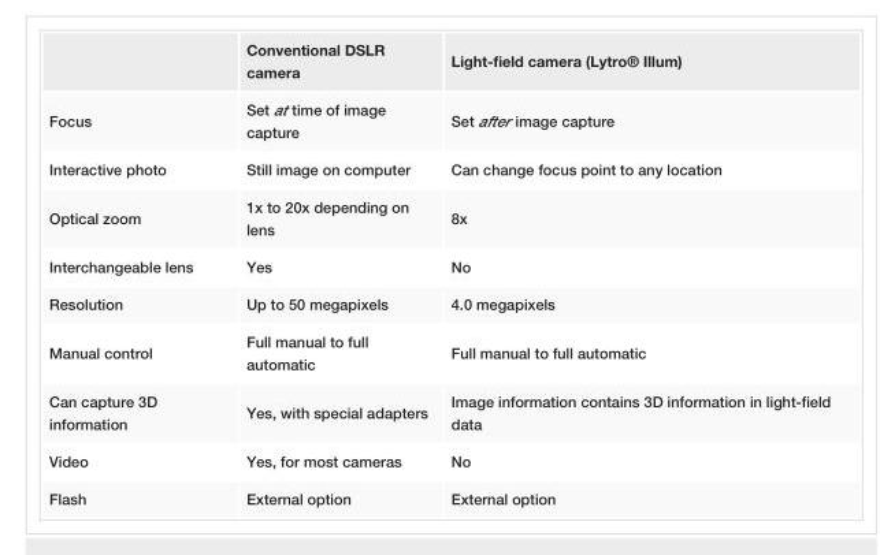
<table><thead><tr><td></td><td>Conventional DSLR camera</td><td>Light-field camera (Lytro® Illum)</td></tr></thead><tbody><tr><td>Focus</td><td>Set at time of image capture</td><td>Set after image capture</td></tr><tr><td>Interactive photo</td><td>Still image on computer</td><td>Can change focus point to any location</td></tr><tr><td>Optical zoom</td><td>1x to 20x depending on lens</td><td>8x</td></tr><tr><td>Interchangeable lens</td><td>Yes</td><td>No</td></tr><tr><td>Resolution</td><td>Up to 50 megapixels</td><td>4.0 megapixels</td></tr><tr><td>Manual control</td><td>Full manual to full automatic</td><td>Full manual to full automatic</td></tr><tr><td>Can capture 3D information</td><td>Yes, with special adapters</td><td>Image information contains 3D information in light-field data</td></tr><tr><td>Video</td><td>Yes, for most cameras</td><td>No</td></tr><tr><td>Flash</td><td>External option</td><td>External option</td></tr></tbody></table>